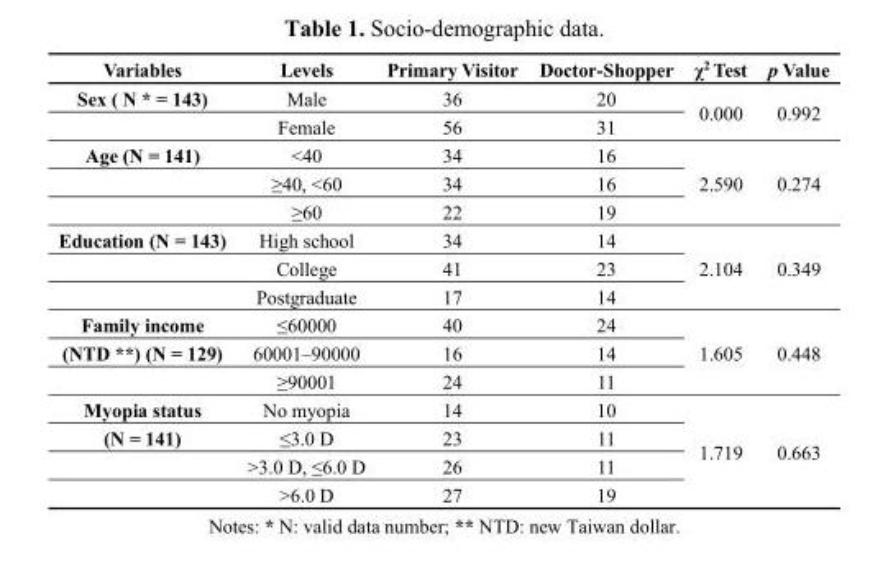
<table><thead><tr><td>Variables</td><td>Levels</td><td>Primary Visitor</td><td>Doctor-Shopper</td><td>χ<sup>2</sup> Test</td><td>p Value</td></tr></thead><tbody><tr><td rowspan="2">Sex ( N * = 143)</td><td>Male</td><td>36</td><td>20</td><td rowspan="2">0.000</td><td rowspan="2">0.992</td></tr><tr><td>Female</td><td>56</td><td>31</td></tr><tr><td rowspan="3">Age (N = 141)</td><td>&lt;40</td><td>34</td><td>16</td><td rowspan="3">2.590</td><td rowspan="3">0.274</td></tr><tr><td>≥40, &lt;60</td><td>34</td><td>16</td></tr><tr><td>≥60</td><td>22</td><td>19</td></tr><tr><td rowspan="3">Education (N = 143)</td><td>High school</td><td>34</td><td>14</td><td rowspan="3">2.104</td><td rowspan="3">0.349</td></tr><tr><td>College</td><td>41</td><td>23</td></tr><tr><td>Postgraduate</td><td>17</td><td>14</td></tr><tr><td>Family income</td><td>≤60000</td><td>40</td><td>24</td><td rowspan="3">1.605</td><td rowspan="3">0.448</td></tr><tr><td rowspan="2">(NTD **) (N = 129)</td><td>60001–90000</td><td>16</td><td>14</td></tr><tr><td>≥90001</td><td>24</td><td>11</td></tr><tr><td>Myopia status</td><td>No myopia</td><td>14</td><td>10</td><td rowspan="4">1.719</td><td rowspan="4">0.663</td></tr><tr><td rowspan="3">(N = 141)</td><td>≤3.0 D</td><td>23</td><td>11</td></tr><tr><td>&gt;3.0 D, ≤6.0 D</td><td>26</td><td>11</td></tr><tr><td>&gt;6.0 D</td><td>27</td><td>19</td></tr></tbody></table>